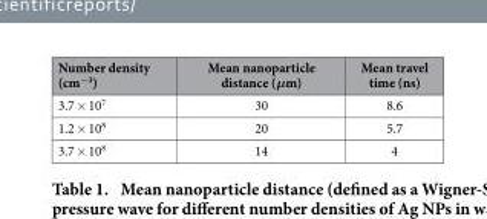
<table><thead><tr><td>Number density (cm<sup>−3</sup>)</td><td>Mean nanoparticle distance (μm)</td><td>Mean travel time (ns)</td></tr></thead><tbody><tr><td>3.7 × 10<sup>7</sup></td><td>30</td><td>8.6</td></tr><tr><td>1.2 × 10<sup>8</sup></td><td>20</td><td>5.7</td></tr><tr><td>3.7 × 10<sup>8</sup></td><td>14</td><td>4</td></tr></tbody></table>